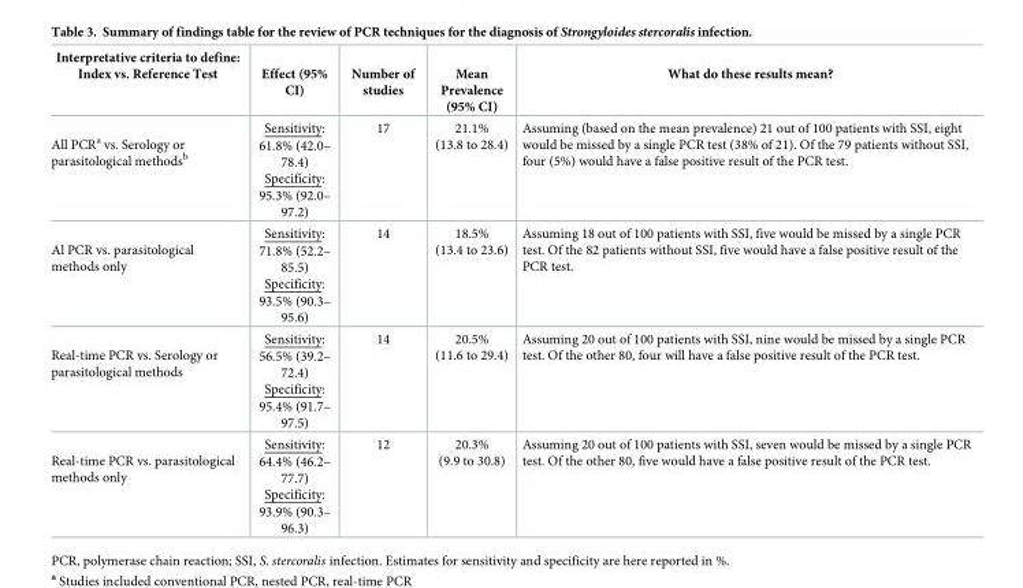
<table><thead><tr><td>Interpretative criteria to define: Index vs. Reference Test</td><td>Effect (95% CI)</td><td>Number of studies</td><td>Mean Prevalence (95% CI)</td><td>What do these results mean?</td></tr></thead><tbody><tr><td>All PCR<sup>a</sup> vs. Serology or parasitological methods<sup>b</sup></td><td>Sensitivity: 61.8% (42.0– 78.4) Specificity: 95.3% (92.0– 97.2)</td><td>17</td><td>21.1% (13.8 to 28.4)</td><td>Assuming (based on the mean prevalence) 21 out of 100 patients with SSI, eight would be missed by a single PCR test (38% of 21). Of the 79 patients without SSI, four (5%) would have a false positive result of the PCR test.</td></tr><tr><td>Al PCR vs. parasitological methods only</td><td>Sensitivity: 71.8% (52.2– 85.5) Specificity: 93.5% (90.3– 95.6)</td><td>14</td><td>18.5% (13.4 to 23.6)</td><td>Assuming 18 out of 100 patients with SSI, five would be missed by a single PCR test. Of the 82 patients without SSI, five would have a false positive result of the PCR test.</td></tr><tr><td>Real-time PCR vs. Serology or parasitological methods</td><td>Sensitivity: 56.5% (39.2– 72.4) Specificity: 95.4% (91.7– 97.5)</td><td>14</td><td>20.5% (11.6 to 29.4)</td><td>Assuming 20 out of 100 patients with SSI, nine would be missed by a single PCR test. Of the other 80, four will have a false positive result of the PCR test.</td></tr><tr><td>Real-time PCR vs. parasitological methods only</td><td>Sensitivity: 64.4% (46.2– 77.7) Specificity: 93.9% (90.3– 96.3)</td><td>12</td><td>20.3% (9.9 to 30.8)</td><td>Assuming 20 out of 100 patients with SSI, seven would be missed by a single PCR test. Of the other 80, five would have a false positive result of the PCR test.</td></tr></tbody></table>